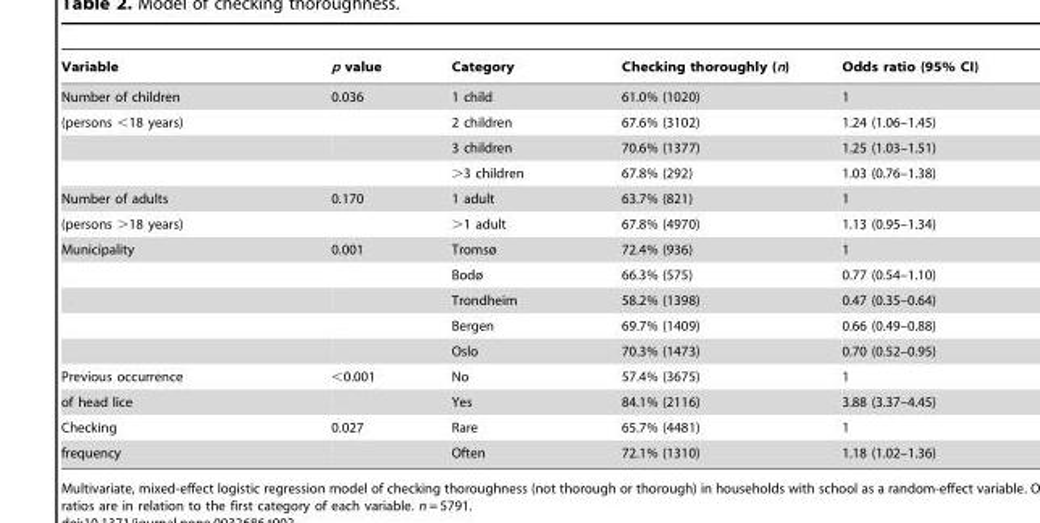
<table><thead><tr><td>Variable</td><td>p value</td><td>Category</td><td>Checking thoroughly (n)</td><td>Odds ratio (95% CI)</td></tr></thead><tbody><tr><td>Number of children</td><td>0.036</td><td>1 child</td><td>61.0% (1020)</td><td>1</td></tr><tr><td rowspan="3">(persons &lt;18 years)</td><td></td><td>2 children</td><td>67.6% (3102)</td><td>1.24 (1.06–1.45)</td></tr><tr><td></td><td>3 children</td><td>70.6% (1377)</td><td>1.25 (1.03–1.51)</td></tr><tr><td></td><td>&gt;3 children</td><td>67.8% (292)</td><td>1.03 (0.76–1.38)</td></tr><tr><td>Number of adults</td><td>0.170</td><td>1 adult</td><td>63.7% (821)</td><td>1</td></tr><tr><td>(persons &gt;18 years)</td><td></td><td>&gt;1 adult</td><td>67.8% (4970)</td><td>1.13 (0.95–1.34)</td></tr><tr><td rowspan="5">Municipality</td><td>0.001</td><td>Tromsø</td><td>72.4% (936)</td><td>1</td></tr><tr><td></td><td>Bodø</td><td>66.3% (575)</td><td>0.77 (0.54–1.10)</td></tr><tr><td></td><td>Trondheim</td><td>58.2% (1398)</td><td>0.47 (0.35–0.64)</td></tr><tr><td></td><td>Bergen</td><td>69.7% (1409)</td><td>0.66 (0.49–0.88)</td></tr><tr><td></td><td>Oslo</td><td>70.3% (1473)</td><td>0.70 (0.52–0.95)</td></tr><tr><td>Previous occurrence</td><td>&lt;0.001</td><td>No</td><td>57.4% (3675)</td><td>1</td></tr><tr><td>of head lice</td><td></td><td>Yes</td><td>84.1% (2116)</td><td>3.88 (3.37–4.45)</td></tr><tr><td>Checking</td><td>0.027</td><td>Rare</td><td>65.7% (4481)</td><td>1</td></tr><tr><td>frequency</td><td></td><td>Often</td><td>72.1% (1310)</td><td>1.18 (1.02–1.36)</td></tr></tbody></table>